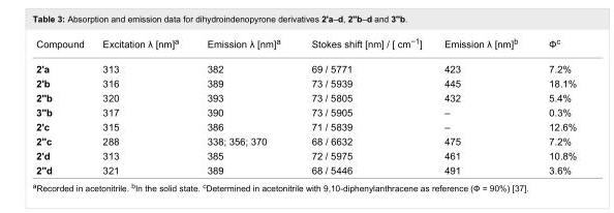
<table><tbody><tr><td>Compound</td><td>Excitation λ [nm]<sup>a</sup></td><td>Emission λ [nm]<sup>a</sup></td><td>Stokes shift [nm] / [ cm<sup>−1</sup>]</td><td>Emission λ [nm]<sup>b</sup></td><td>Ф<sup>c</sup></td></tr><tr><td>2&#x27;a</td><td>313</td><td>382</td><td>69 / 5771</td><td>423</td><td>7.2%</td></tr><tr><td>2&#x27;b</td><td>316</td><td>389</td><td>73 / 5939</td><td>445</td><td>18.1%</td></tr><tr><td>2&#x27;&#x27;b</td><td>320</td><td>393</td><td>73 / 5805</td><td>432</td><td>5.4%</td></tr><tr><td>3&#x27;&#x27;b</td><td>317</td><td>390</td><td>73 / 5905</td><td>–</td><td>0.3%</td></tr><tr><td>2&#x27;c</td><td>315</td><td>386</td><td>71 / 5839</td><td>–</td><td>12.6%</td></tr><tr><td>2&#x27;&#x27;c</td><td>288</td><td>338; 356; 370</td><td>68 / 6632</td><td>475</td><td>7.2%</td></tr><tr><td>2&#x27;d</td><td>313</td><td>385</td><td>72 / 5975</td><td>461</td><td>10.8%</td></tr><tr><td>2&#x27;&#x27;d</td><td>321</td><td>389</td><td>68 / 5446</td><td>491</td><td>3.6%</td></tr></tbody></table>